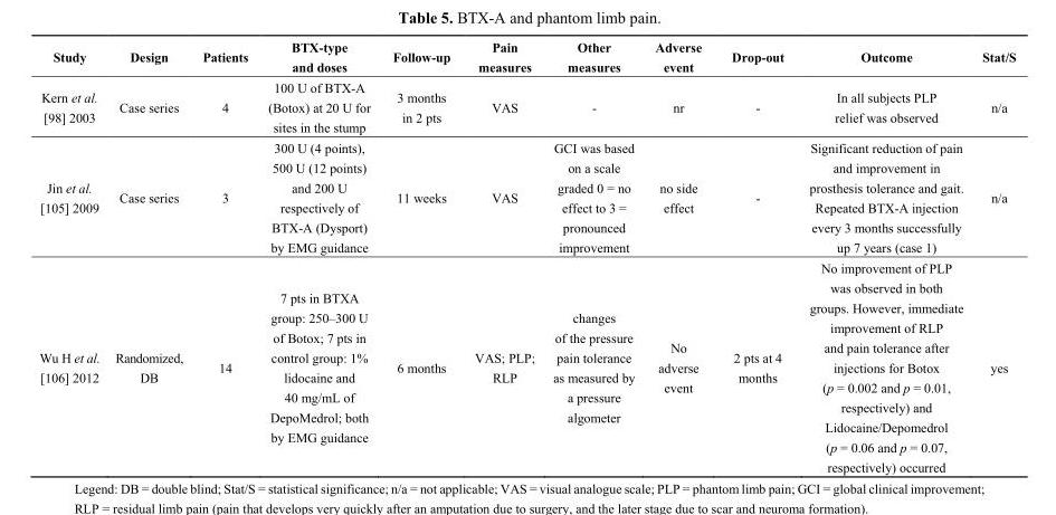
<table><thead><tr><td>Study</td><td>Design</td><td>Patients</td><td>BTX-type and doses</td><td>Follow-up</td><td>Pain measures</td><td>Other measures</td><td>Adverse event</td><td>Drop-out</td><td>Outcome</td><td>Stat/S</td></tr></thead><tbody><tr><td>Kern et al. [98] 2003</td><td>Case series</td><td>4</td><td>100 U of BTX-A (Botox) at 20 U for sites in the stump</td><td>3 months in 2 pts</td><td>VAS</td><td>-</td><td>nr</td><td>-</td><td>In all subjects PLP relief was observed</td><td>n/a</td></tr><tr><td>Jin et al. [105] 2009</td><td>Case series</td><td>3</td><td>300 U (4 points), 500 U (12 points) and 200 U respectively of BTX-A (Dysport) by EMG guidance</td><td>11 weeks</td><td>VAS</td><td>GCI was based on a scale graded 0 = no effect to 3 = pronounced improvement</td><td>no side effect</td><td>-</td><td>Significant reduction of pain and improvement in prosthesis tolerance and gait. Repeated BTX-A injection every 3 months successfully up 7 years (case 1)</td><td>n/a</td></tr><tr><td>Wu H et al. [106] 2012</td><td>Randomized, DB</td><td>14</td><td>7 pts in BTXA group: 250–300 U of Botox; 7 pts in control group: 1% lidocaine and 40 mg/mL of DepoMedrol; both by EMG guidance</td><td>6 months</td><td>VAS; PLP; RLP</td><td>changes of the pressure pain tolerance as measured by a pressure algometer</td><td>No adverse event</td><td>2 pts at 4 months</td><td>No improvement of PLP was observed in both groups. However, immediate improvement of RLP and pain tolerance after injections for Botox (p = 0.002 and p = 0.01, respectively) and Lidocaine/Depomedrol (p = 0.06 and p = 0.07, respectively) occurred</td><td>yes</td></tr></tbody></table>